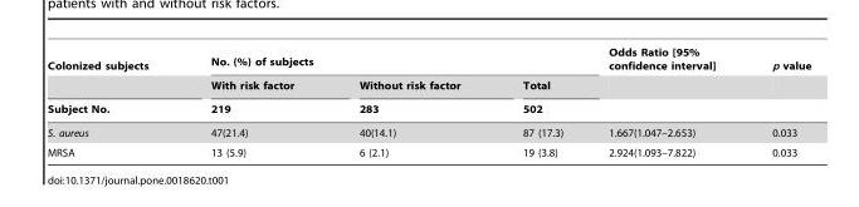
<table><thead><tr><td rowspan="3">Colonized subjects Subject No.</td><td colspan="3">No. (%) of subjects</td><td rowspan="3">Odds Ratio [95% confidence interval]</td><td rowspan="3">p value</td></tr><tr><td rowspan="2">With risk factor 219</td><td rowspan="2">Without risk factor 283</td><td rowspan="2">Total 502</td></tr><tr></tr></thead><tbody><tr><td>S. aureus</td><td>47(21.4)</td><td>40(14.1)</td><td>87 (17.3)</td><td>1.667(1.047–2.653)</td><td>0.033</td></tr><tr><td>MRSA</td><td>13 (5.9)</td><td>6 (2.1)</td><td>19 (3.8)</td><td>2.924(1.093–7.822)</td><td>0.033</td></tr></tbody></table>